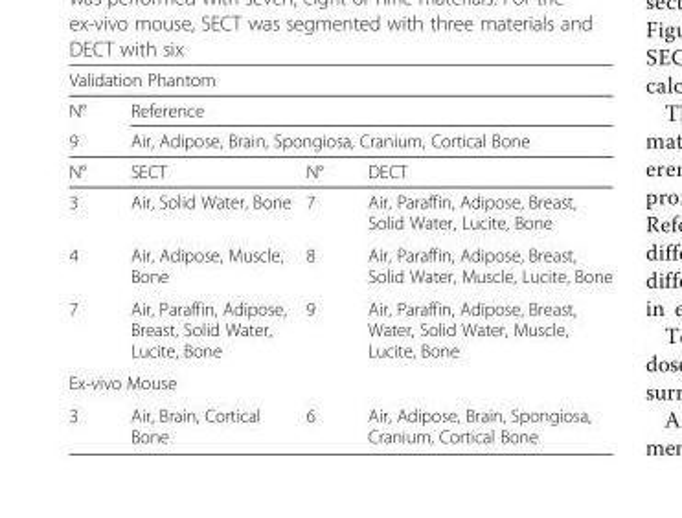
<table><thead><tr><td colspan="4">Validation Phantom</td></tr><tr><td rowspan="3">N° 9 N°</td><td rowspan="2" colspan="3">Reference Air, Adipose, Brain, Spongiosa, Cranium, Cortical Bone</td></tr><tr></tr><tr><td>SECT</td><td>N°</td><td>DECT</td></tr></thead><tbody><tr><td>3</td><td>Air, Solid Water, Bone</td><td>7</td><td>Air, Paraffin, Adipose, Breast, Solid Water, Lucite, Bone</td></tr><tr><td>4</td><td>Air, Adipose, Muscle, Bone</td><td>8</td><td>Air, Paraffin, Adipose, Breast, Solid Water, Muscle, Lucite, Bone</td></tr><tr><td>7</td><td>Air, Paraffin, Adipose, Breast, Solid Water, Lucite, Bone</td><td>9</td><td>Air, Paraffin, Adipose, Breast, Water, Solid Water, Muscle, Lucite, Bone</td></tr><tr><td colspan="4">Ex-vivo Mouse</td></tr><tr><td>3</td><td>Air, Brain, Cortical Bone</td><td>6</td><td>Air, Adipose, Brain, Spongiosa, Cranium, Cortical Bone</td></tr></tbody></table>